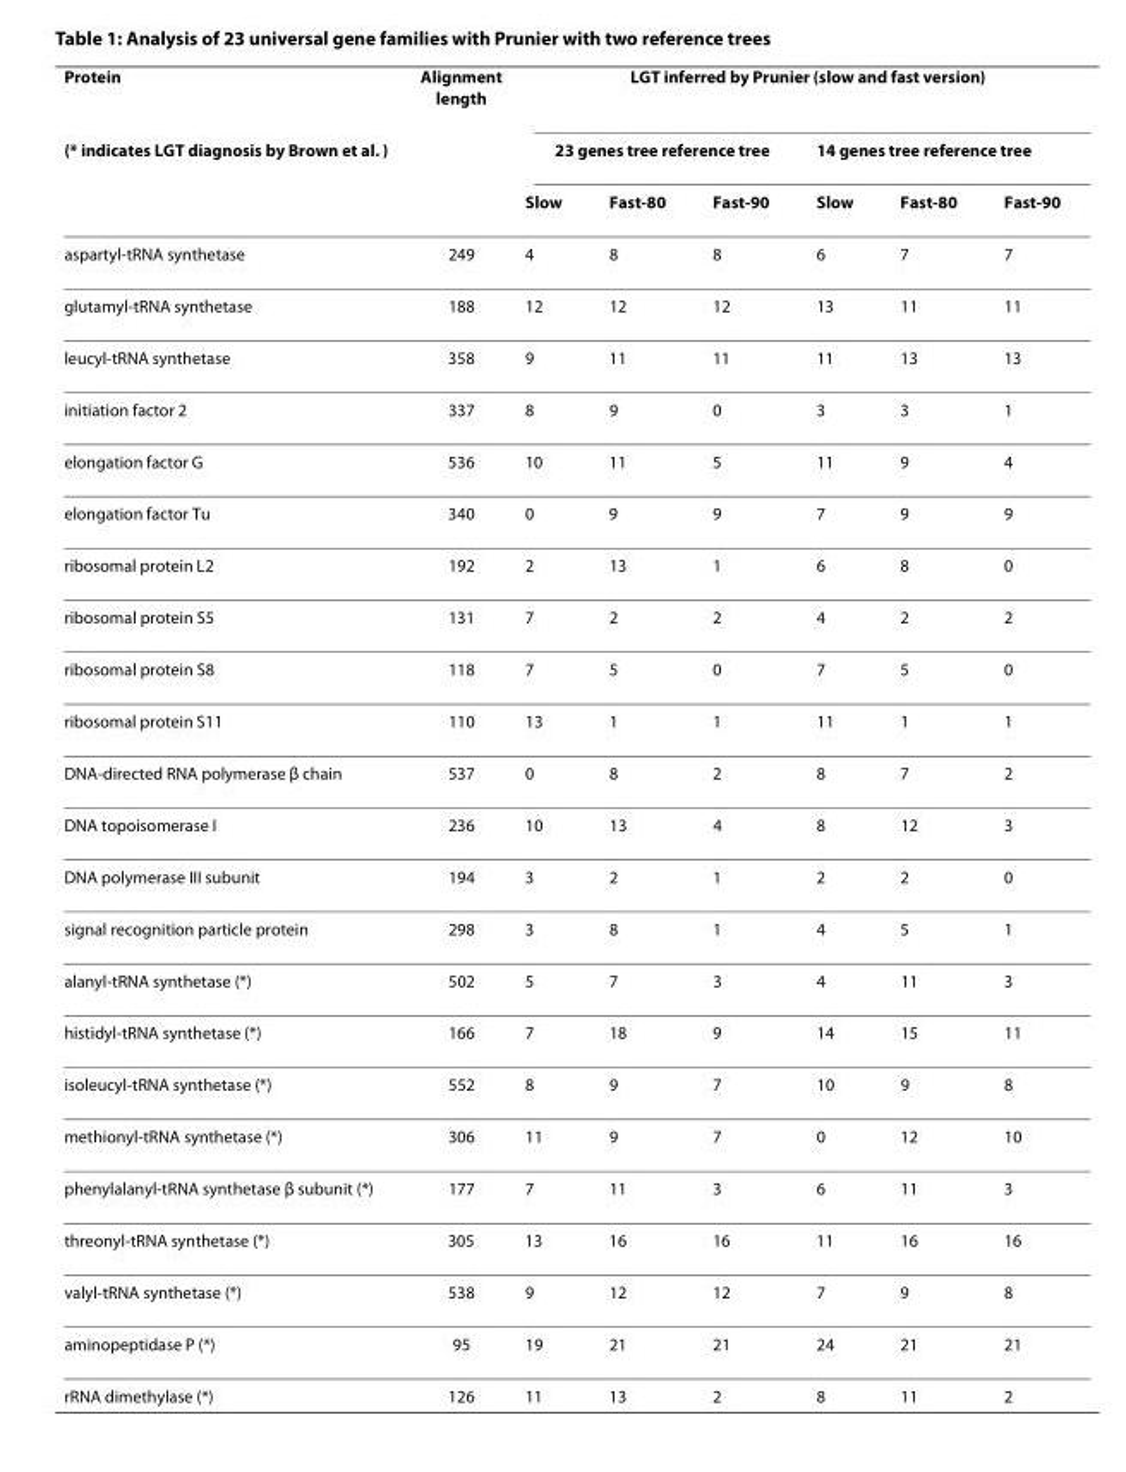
<table><thead><tr><td rowspan="3">Protein (* indicates LGT diagnosis by Brown et al. )</td><td rowspan="3">Alignment length</td><td colspan="6">LGT inferred by Prunier (slow and fast version)</td></tr><tr><td colspan="3">23 genes tree reference tree</td><td colspan="3">14 genes tree reference tree</td></tr><tr><td>Slow</td><td>Fast-80</td><td>Fast-90</td><td>Slow</td><td>Fast-80</td><td>Fast-90</td></tr></thead><tbody><tr><td>aspartyl-tRNA synthetase</td><td>249</td><td>4</td><td>8</td><td>8</td><td>6</td><td>7</td><td>7</td></tr><tr><td>glutamyl-tRNA synthetase</td><td>188</td><td>12</td><td>12</td><td>12</td><td>13</td><td>11</td><td>11</td></tr><tr><td>leucyl-tRNA synthetase</td><td>358</td><td>9</td><td>11</td><td>11</td><td>11</td><td>13</td><td>13</td></tr><tr><td>initiation factor 2</td><td>337</td><td>8</td><td>9</td><td>0</td><td>3</td><td>3</td><td>1</td></tr><tr><td>elongation factor G</td><td>536</td><td>10</td><td>11</td><td>5</td><td>11</td><td>9</td><td>4</td></tr><tr><td>elongation factor Tu</td><td>340</td><td>0</td><td>9</td><td>9</td><td>7</td><td>9</td><td>9</td></tr><tr><td>ribosomal protein L2</td><td>192</td><td>2</td><td>13</td><td>1</td><td>6</td><td>8</td><td>0</td></tr><tr><td>ribosomal protein S5</td><td>131</td><td>7</td><td>2</td><td>2</td><td>4</td><td>2</td><td>2</td></tr><tr><td>ribosomal protein S8</td><td>118</td><td>7</td><td>5</td><td>0</td><td>7</td><td>5</td><td>0</td></tr><tr><td>ribosomal protein S11</td><td>110</td><td>13</td><td>1</td><td>1</td><td>11</td><td>1</td><td>1</td></tr><tr><td>DNA-directed RNA polymerase β chain</td><td>537</td><td>0</td><td>8</td><td>2</td><td>8</td><td>7</td><td>2</td></tr><tr><td>DNA topoisomerase I</td><td>236</td><td>10</td><td>13</td><td>4</td><td>8</td><td>12</td><td>3</td></tr><tr><td>DNA polymerase III subunit</td><td>194</td><td>3</td><td>2</td><td>1</td><td>2</td><td>2</td><td>0</td></tr><tr><td>signal recognition particle protein</td><td>298</td><td>3</td><td>8</td><td>1</td><td>4</td><td>5</td><td>1</td></tr><tr><td>alanyl-tRNA synthetase (*)</td><td>502</td><td>5</td><td>7</td><td>3</td><td>4</td><td>11</td><td>3</td></tr><tr><td>histidyl-tRNA synthetase (*)</td><td>166</td><td>7</td><td>18</td><td>9</td><td>14</td><td>15</td><td>11</td></tr><tr><td>isoleucyl-tRNA synthetase (*)</td><td>552</td><td>8</td><td>9</td><td>7</td><td>10</td><td>9</td><td>8</td></tr><tr><td>methionyl-tRNA synthetase (*)</td><td>306</td><td>11</td><td>9</td><td>7</td><td>0</td><td>12</td><td>10</td></tr><tr><td>phenylalanyl-tRNA synthetase β subunit (*)</td><td>177</td><td>7</td><td>11</td><td>3</td><td>6</td><td>11</td><td>3</td></tr><tr><td>threonyl-tRNA synthetase (*)</td><td>305</td><td>13</td><td>16</td><td>16</td><td>11</td><td>16</td><td>16</td></tr><tr><td>valyl-tRNA synthetase (*)</td><td>538</td><td>9</td><td>12</td><td>12</td><td>7</td><td>9</td><td>8</td></tr><tr><td>aminopeptidase P (*)</td><td>95</td><td>19</td><td>21</td><td>21</td><td>24</td><td>21</td><td>21</td></tr><tr><td>rRNA dimethylase (*)</td><td>126</td><td>11</td><td>13</td><td>2</td><td>8</td><td>11</td><td>2</td></tr></tbody></table>